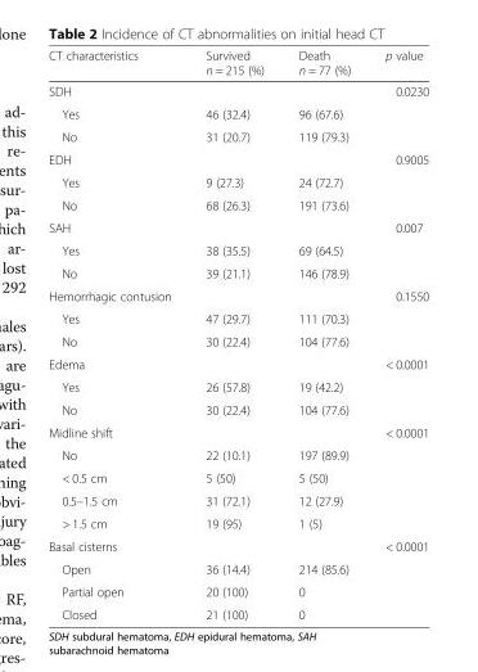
<table><thead><tr><td>CT characteristics</td><td>Survived n = 215 (%)</td><td>Death n = 77 (%)</td><td>p value</td></tr></thead><tbody><tr><td>SDH</td><td></td><td></td><td>0.0230</td></tr><tr><td>Yes</td><td>46 (32.4)</td><td>96 (67.6)</td><td></td></tr><tr><td>No</td><td>31 (20.7)</td><td>119 (79.3)</td><td></td></tr><tr><td>EDH</td><td></td><td></td><td>0.9005</td></tr><tr><td>Yes</td><td>9 (27.3)</td><td>24 (72.7)</td><td></td></tr><tr><td>No</td><td>68 (26.3)</td><td>191 (73.6)</td><td></td></tr><tr><td>SAH</td><td></td><td></td><td>0.007</td></tr><tr><td>Yes</td><td>38 (35.5)</td><td>69 (64.5)</td><td></td></tr><tr><td>No</td><td>39 (21.1)</td><td>146 (78.9)</td><td></td></tr><tr><td>Hemorrhagic contusion</td><td></td><td></td><td>0.1550</td></tr><tr><td>Yes</td><td>47 (29.7)</td><td>111 (70.3)</td><td></td></tr><tr><td>No</td><td>30 (22.4)</td><td>104 (77.6)</td><td></td></tr><tr><td>Edema</td><td></td><td></td><td>&lt; 0.0001</td></tr><tr><td>Yes</td><td>26 (57.8)</td><td>19 (42.2)</td><td></td></tr><tr><td>No</td><td>30 (22.4)</td><td>104 (77.6)</td><td></td></tr><tr><td>Midline shift</td><td></td><td></td><td>&lt; 0.0001</td></tr><tr><td>No</td><td>22 (10.1)</td><td>197 (89.9)</td><td></td></tr><tr><td>&lt; 0.5 cm</td><td>5 (50)</td><td>5 (50)</td><td></td></tr><tr><td>0.5–1.5 cm</td><td>31 (72.1)</td><td>12 (27.9)</td><td></td></tr><tr><td>&gt; 1.5 cm</td><td>19 (95)</td><td>1 (5)</td><td></td></tr><tr><td>Basal cisterns</td><td></td><td></td><td>&lt; 0.0001</td></tr><tr><td>Open</td><td>36 (14.4)</td><td>214 (85.6)</td><td></td></tr><tr><td>Partial open</td><td>20 (100)</td><td>0</td><td></td></tr><tr><td>Closed</td><td>21 (100)</td><td>0</td><td></td></tr></tbody></table>